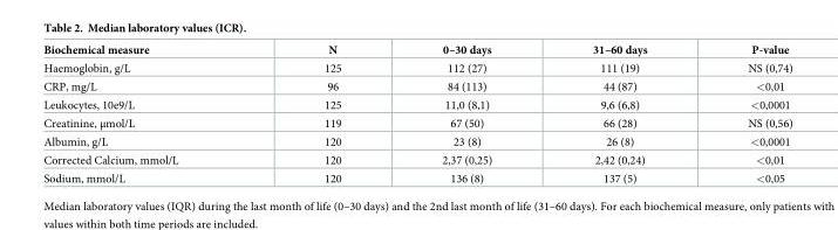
<table><thead><tr><td>Biochemical measure</td><td>N</td><td>0–30 days</td><td>31–60 days</td><td>P-value</td></tr></thead><tbody><tr><td>Haemoglobin, g/L</td><td>125</td><td>112 (27)</td><td>111 (19)</td><td>NS (0,74)</td></tr><tr><td>CRP, mg/L</td><td>96</td><td>84 (113)</td><td>44 (87)</td><td>&lt;0,01</td></tr><tr><td>Leukocytes, 10e9/L</td><td>125</td><td>11,0 (8,1)</td><td>9,6 (6,8)</td><td>&lt;0,0001</td></tr><tr><td>Creatinine, μmol/L</td><td>119</td><td>67 (50)</td><td>66 (28)</td><td>NS (0,56)</td></tr><tr><td>Albumin, g/L</td><td>120</td><td>23 (8)</td><td>26 (8)</td><td>&lt;0,0001</td></tr><tr><td>Corrected Calcium, mmol/L</td><td>120</td><td>2,37 (0,25)</td><td>2,42 (0,24)</td><td>&lt;0,01</td></tr><tr><td>Sodium, mmol/L</td><td>120</td><td>136 (8)</td><td>137 (5)</td><td>&lt;0,05</td></tr></tbody></table>